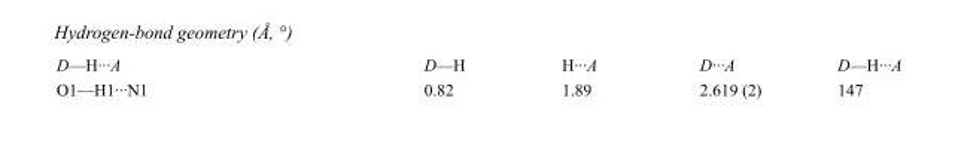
<table><tbody><tr><td>D—H···A</td><td>D—H</td><td>H···A</td><td>D···A</td><td>D—H···A</td></tr><tr><td>O1—H1···N1</td><td>0.82</td><td>1.89</td><td>2.619 (2)</td><td>147</td></tr></tbody></table>